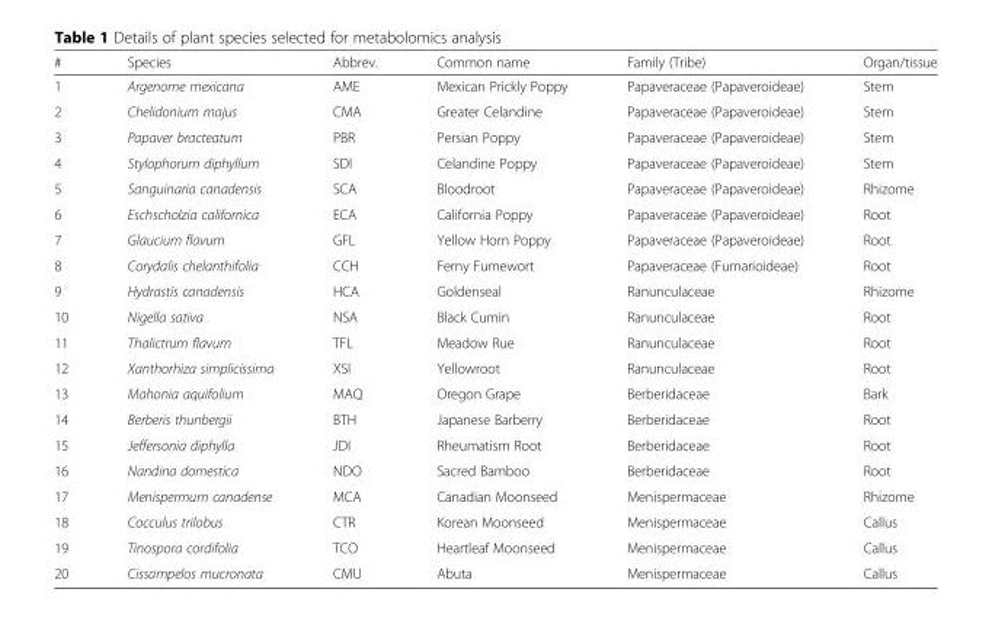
<table><thead><tr><td>#</td><td>Species</td><td>Abbrev.</td><td>Common name</td><td>Family (Tribe)</td><td>Organ/tissue</td></tr></thead><tbody><tr><td>1</td><td>Argenome mexicana</td><td>AME</td><td>Mexican Prickly Poppy</td><td>Papaveraceae (Papaveroideae)</td><td>Stem</td></tr><tr><td>2</td><td>Chelidonium majus</td><td>CMA</td><td>Greater Celandine</td><td>Papaveraceae (Papaveroideae)</td><td>Stem</td></tr><tr><td>3</td><td>Papaver bracteatum</td><td>PBR</td><td>Persian Poppy</td><td>Papaveraceae (Papaveroideae)</td><td>Stem</td></tr><tr><td>4</td><td>Stylophorum diphyllum</td><td>SDI</td><td>Celandine Poppy</td><td>Papaveraceae (Papaveroideae)</td><td>Stem</td></tr><tr><td>5</td><td>Sanguinaria canadensis</td><td>SCA</td><td>Bloodroot</td><td>Papaveraceae (Papaveroideae)</td><td>Rhizome</td></tr><tr><td>6</td><td>Eschscholzia californica</td><td>ECA</td><td>California Poppy</td><td>Papaveraceae (Papaveroideae)</td><td>Root</td></tr><tr><td>7</td><td>Glaucium flavum</td><td>GFL</td><td>Yellow Horn Poppy</td><td>Papaveraceae (Papaveroideae)</td><td>Root</td></tr><tr><td>8</td><td>Corydalis chelanthifolia</td><td>CCH</td><td>Ferny Fumewort</td><td>Papaveraceae (Fumarioideae)</td><td>Root</td></tr><tr><td>9</td><td>Hydrastis canadensis</td><td>HCA</td><td>Goldenseal</td><td>Ranunculaceae</td><td>Rhizome</td></tr><tr><td>10</td><td>Nigella sativa</td><td>NSA</td><td>Black Cumin</td><td>Ranunculaceae</td><td>Root</td></tr><tr><td>11</td><td>Thalictrum flavum</td><td>TFL</td><td>Meadow Rue</td><td>Ranunculaceae</td><td>Root</td></tr><tr><td>12</td><td>Xanthorhiza simplicissima</td><td>XSI</td><td>Yellowroot</td><td>Ranunculaceae</td><td>Root</td></tr><tr><td>13</td><td>Mahonia aquifolium</td><td>MAQ</td><td>Oregon Grape</td><td>Berberidaceae</td><td>Bark</td></tr><tr><td>14</td><td>Berberis thunbergii</td><td>BTH</td><td>Japanese Barberry</td><td>Berberidaceae</td><td>Root</td></tr><tr><td>15</td><td>Jeffersonia diphylla</td><td>JDI</td><td>Rheumatism Root</td><td>Berberidaceae</td><td>Root</td></tr><tr><td>16</td><td>Nandina domestica</td><td>NDO</td><td>Sacred Bamboo</td><td>Berberidaceae</td><td>Root</td></tr><tr><td>17</td><td>Menispermum canadense</td><td>MCA</td><td>Canadian Moonseed</td><td>Menispermaceae</td><td>Rhizome</td></tr><tr><td>18</td><td>Cocculus trilobus</td><td>CTR</td><td>Korean Moonseed</td><td>Menispermaceae</td><td>Callus</td></tr><tr><td>19</td><td>Tinospora cordifolia</td><td>TCO</td><td>Heartleaf Moonseed</td><td>Menispermaceae</td><td>Callus</td></tr><tr><td>20</td><td>Cissampelos mucronata</td><td>CMU</td><td>Abuta</td><td>Menispermaceae</td><td>Callus</td></tr></tbody></table>